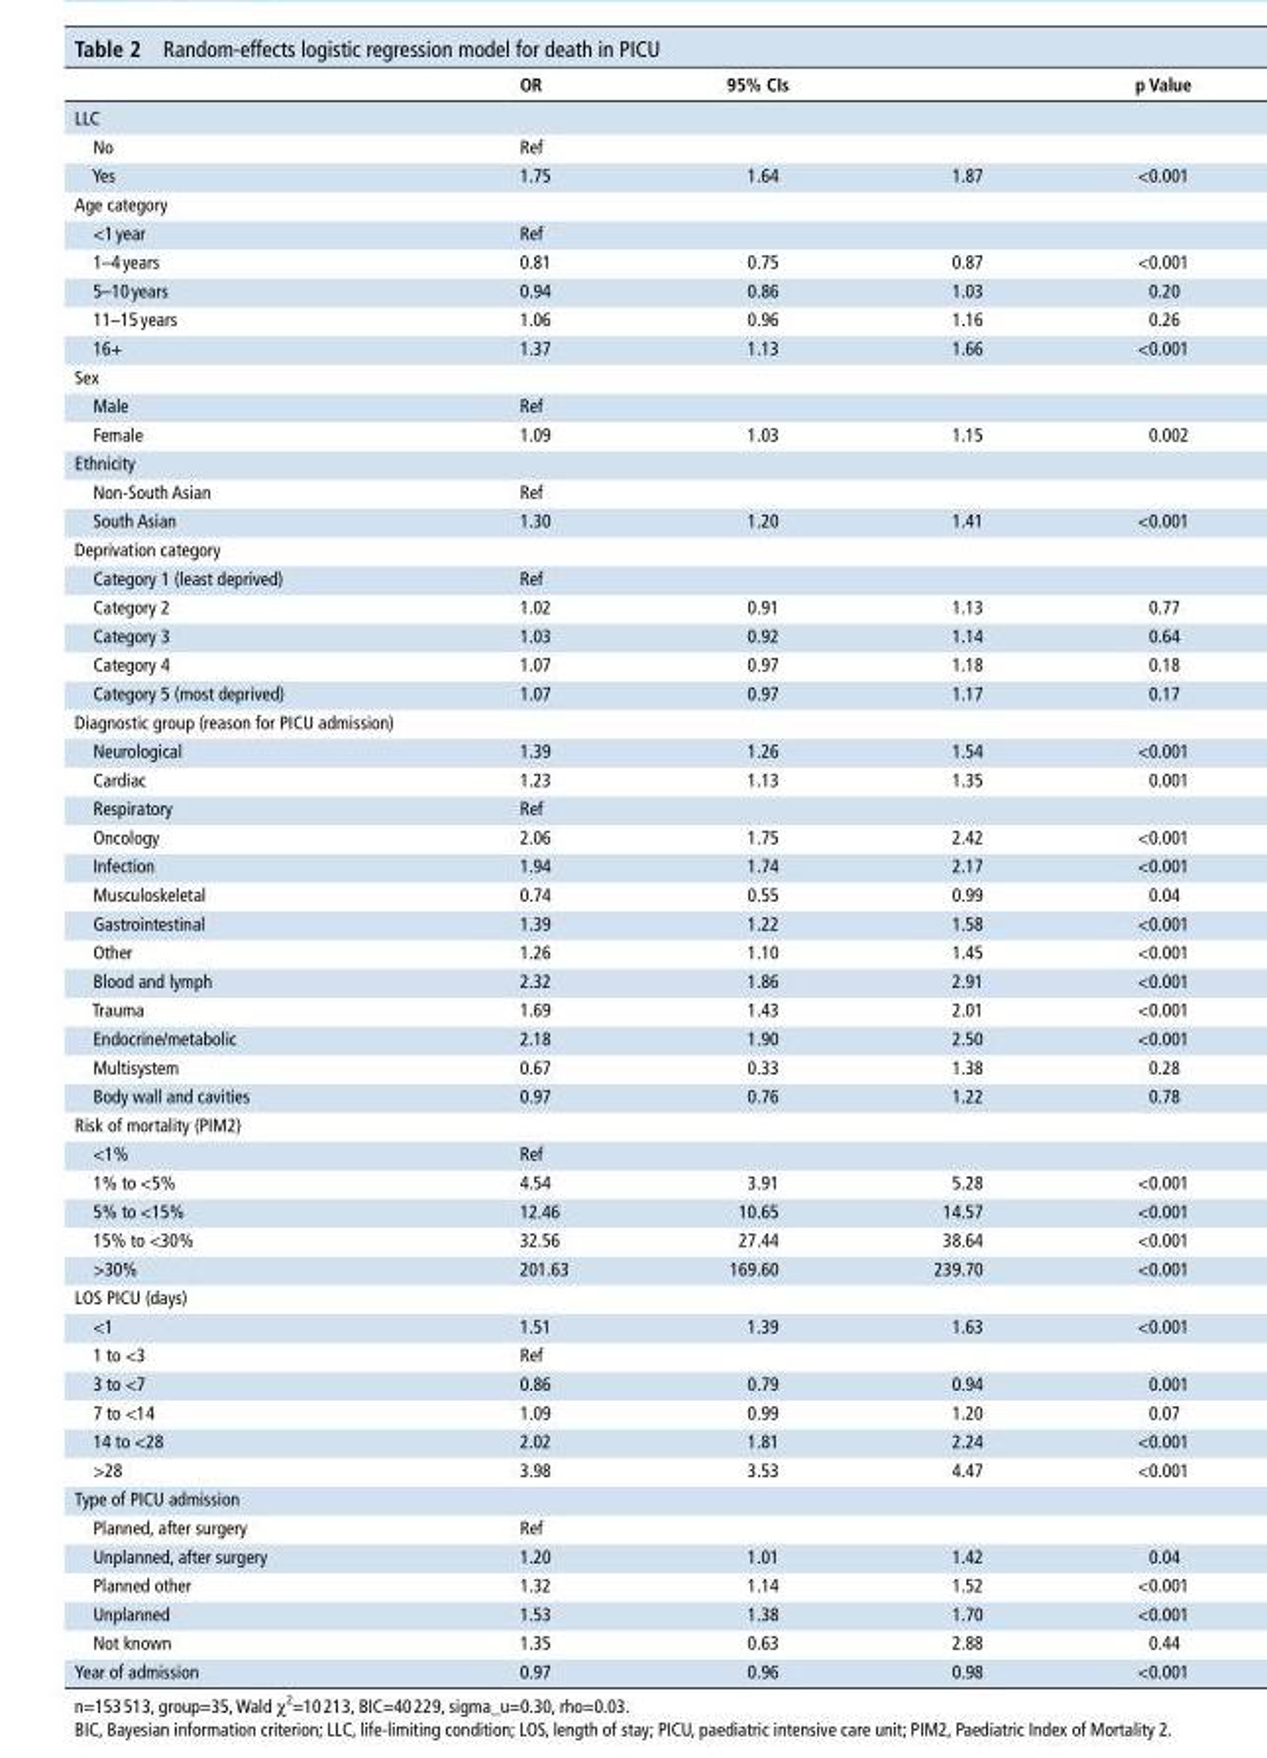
<table><thead><tr><td rowspan="2">LLC</td><td rowspan="2">Or</td><td colspan="2">95% CIs</td><td rowspan="2">p Value</td></tr><tr><td></td><td></td></tr></thead><tbody><tr><td>No</td><td colspan="4">Ref</td></tr><tr><td>Yes</td><td>1.75</td><td>1.64</td><td>1.87</td><td>&lt;0.001</td></tr><tr><td colspan="5">Age category</td></tr><tr><td>&lt;1 year</td><td colspan="4">Ref</td></tr><tr><td>1–4 years</td><td>0.81</td><td>0.75</td><td>0.87</td><td>&lt;0.001</td></tr><tr><td>5–10 years</td><td>0.94</td><td>0.86</td><td>1.03</td><td>0.20</td></tr><tr><td>11–15 years</td><td>1.06</td><td>0.96</td><td>1.16</td><td>0.26</td></tr><tr><td>16+</td><td>1.37</td><td>1.13</td><td>1.66</td><td>&lt;0.001</td></tr><tr><td colspan="5">Sex</td></tr><tr><td>Male</td><td colspan="4">Ref</td></tr><tr><td>Female</td><td>1.09</td><td>1.03</td><td>1.15</td><td>0.002</td></tr><tr><td colspan="5">Ethnicity</td></tr><tr><td>Non-South Asian</td><td colspan="4">Ref</td></tr><tr><td>South Asian</td><td>1.30</td><td>1.20</td><td>1.41</td><td>&lt;0.001</td></tr><tr><td colspan="5">Deprivation category</td></tr><tr><td>Category 1 (least deprived)</td><td colspan="4">Ref</td></tr><tr><td>Category 2</td><td>1.02</td><td>0.91</td><td>1.13</td><td>0.77</td></tr><tr><td>Category 3</td><td>1.03</td><td>0.92</td><td>1.14</td><td>0.64</td></tr><tr><td>Category 4</td><td>1.07</td><td>0.97</td><td>1.18</td><td>0.18</td></tr><tr><td>Category 5 (most deprived)</td><td>1.07</td><td>0.97</td><td>1.17</td><td>0.17</td></tr><tr><td colspan="5">Diagnostic group (reason for PICU admission)</td></tr><tr><td>Neurological</td><td>1.39</td><td>1.26</td><td>1.54</td><td>&lt;0.001</td></tr><tr><td>Cardiac</td><td>1.23</td><td>1.13</td><td>1.35</td><td>0.001</td></tr><tr><td>Respiratory</td><td colspan="4">Ref</td></tr><tr><td>Oncology</td><td>2.06</td><td>1.75</td><td>2.42</td><td>&lt;0.001</td></tr><tr><td>Infection</td><td>1.94</td><td>1.74</td><td>2.17</td><td>&lt;0.001</td></tr><tr><td>Musculoskeletal</td><td>0.74</td><td>0.55</td><td>0.99</td><td>0.04</td></tr><tr><td>Gastrointestinal</td><td>1.39</td><td>1.22</td><td>1.58</td><td>&lt;0.001</td></tr><tr><td>Other</td><td>1.26</td><td>1.10</td><td>1.45</td><td>&lt;0.001</td></tr><tr><td>Blood and lymph</td><td>2.32</td><td>1.86</td><td>2.91</td><td>&lt;0.001</td></tr><tr><td>Trauma</td><td>1.69</td><td>1.43</td><td>2.01</td><td>&lt;0.001</td></tr><tr><td>Endocrine/metabolic</td><td>2.18</td><td>1.90</td><td>2.50</td><td>&lt;0.001</td></tr><tr><td>Multisystem</td><td>0.67</td><td>0.33</td><td>1.38</td><td>0.28</td></tr><tr><td>Body wall and cavities</td><td>0.97</td><td>0.76</td><td>1.22</td><td>0.78</td></tr><tr><td colspan="5">Risk of mortality (PIM2)</td></tr><tr><td>&lt;1%</td><td colspan="4">Ref</td></tr><tr><td>1% to &lt;5%</td><td>4.54</td><td>3.91</td><td>5.28</td><td>&lt;0.001</td></tr><tr><td>5% to &lt;15%</td><td>12.46</td><td>10.65</td><td>14.57</td><td>&lt;0.001</td></tr><tr><td>15% to &lt;30%</td><td>32.56</td><td>27.44</td><td>38.64</td><td>&lt;0.001</td></tr><tr><td>&gt;30%</td><td>201.63</td><td>169.60</td><td>239.70</td><td>&lt;0.001</td></tr><tr><td colspan="5">LOS PICU (days)</td></tr><tr><td>&lt;1</td><td>1.51</td><td>1.39</td><td>1.63</td><td>&lt;0.001</td></tr><tr><td>1 to &lt;3</td><td colspan="4">Ref</td></tr><tr><td>3 to &lt;7</td><td>0.86</td><td>0.79</td><td>0.94</td><td>0.001</td></tr><tr><td>7 to &lt;14</td><td>1.09</td><td>0.99</td><td>1.20</td><td>0.07</td></tr><tr><td>14 to &lt;28</td><td>2.02</td><td>1.81</td><td>2.24</td><td>&lt;0.001</td></tr><tr><td>&gt;28</td><td>3.98</td><td>3.53</td><td>4.47</td><td>&lt;0.001</td></tr><tr><td colspan="5">Type of PICU admission</td></tr><tr><td>Planned, after surgery</td><td colspan="4">Ref</td></tr><tr><td>Unplanned, after surgery</td><td>1.20</td><td>1.01</td><td>1.42</td><td>0.04</td></tr><tr><td>Planned other</td><td>1.32</td><td>1.14</td><td>1.52</td><td>&lt;0.001</td></tr><tr><td>Unplanned</td><td>1.53</td><td>1.38</td><td>1.70</td><td>&lt;0.001</td></tr><tr><td>Not known</td><td>1.35</td><td>0.63</td><td>2.88</td><td>0.44</td></tr><tr><td>Year of admission</td><td>0.97</td><td>0.96</td><td>0.98</td><td>&lt;0.001</td></tr></tbody></table>